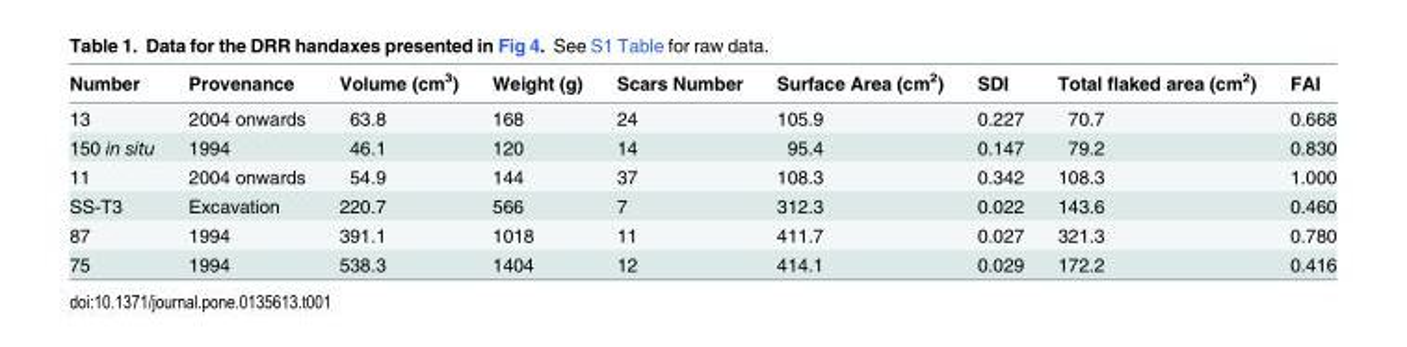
<table><thead><tr><td>Number</td><td>Provenance</td><td>Volume (cm<sup>3</sup>)</td><td>Weight (g)</td><td>Scars Number</td><td>Surface Area (cm<sup>2</sup>)</td><td>SDI</td><td>Total flaked area (cm<sup>2</sup>)</td><td>FAI</td></tr></thead><tbody><tr><td>13</td><td>2004 onwards</td><td>63.8</td><td>168</td><td>24</td><td>105.9</td><td>0.227</td><td>70.7</td><td>0.668</td></tr><tr><td>150 in situ</td><td>1994</td><td>46.1</td><td>120</td><td>14</td><td>95.4</td><td>0.147</td><td>79.2</td><td>0.830</td></tr><tr><td>11</td><td>2004 onwards</td><td>54.9</td><td>144</td><td>37</td><td>108.3</td><td>0.342</td><td>108.3</td><td>1.000</td></tr><tr><td>SS-T3</td><td>Excavation</td><td>220.7</td><td>566</td><td>7</td><td>312.3</td><td>0.022</td><td>143.6</td><td>0.460</td></tr><tr><td>87</td><td>1994</td><td>391.1</td><td>1018</td><td>11</td><td>411.7</td><td>0.027</td><td>321.3</td><td>0.780</td></tr><tr><td>75</td><td>1994</td><td>538.3</td><td>1404</td><td>12</td><td>414.1</td><td>0.029</td><td>172.2</td><td>0.416</td></tr></tbody></table>